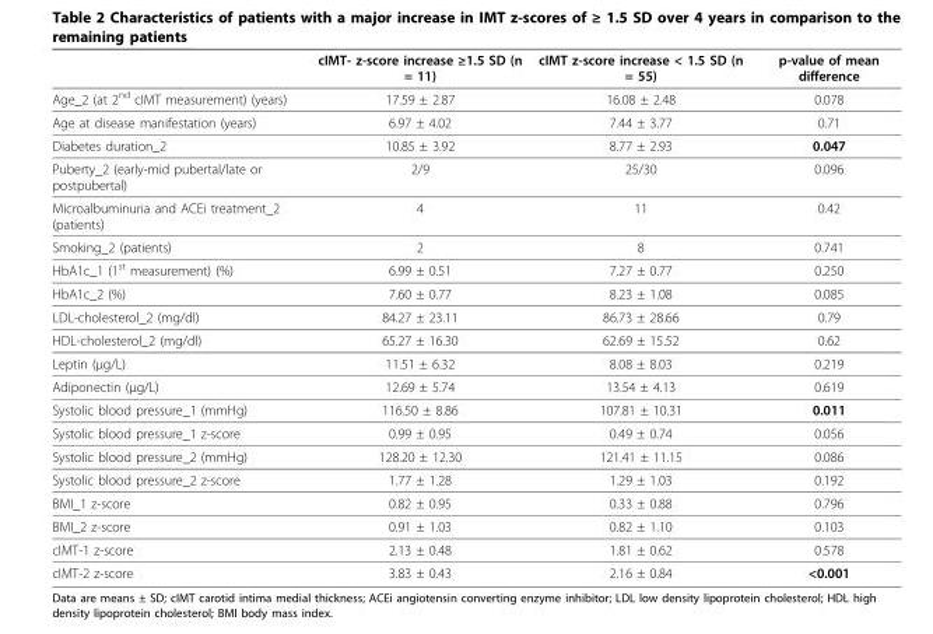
<table><thead><tr><td></td><td>cIMT- z-score increase ≥1.5 SD (n = 11)</td><td>cIMT z-score increase &lt; 1.5 SD (n = 55)</td><td>p-value of mean difference</td></tr></thead><tbody><tr><td>Age_2 (at 2<sup>nd</sup> cIMT measurement) (years)</td><td>17.59 ± 2.87</td><td>16.08 ± 2.48</td><td>0.078</td></tr><tr><td>Age at disease manifestation (years)</td><td>6.97 ± 4.02</td><td>7.44 ± 3.77</td><td>0.71</td></tr><tr><td>Diabetes duration_2</td><td>10.85 ± 3.92</td><td>8.77 ± 2.93</td><td>0.047</td></tr><tr><td>Puberty_2 (early-mid pubertal/late or postpubertal)</td><td>2/9</td><td>25/30</td><td>0.096</td></tr><tr><td>Microalbuminuria and ACEi treatment_2 (patients)</td><td>4</td><td>11</td><td>0.42</td></tr><tr><td>Smoking_2 (patients)</td><td>2</td><td>8</td><td>0.741</td></tr><tr><td>HbA1c_1 (1<sup>st</sup> measurement) (%)</td><td>6.99 ± 0.51</td><td>7.27 ± 0.77</td><td>0.250</td></tr><tr><td>HbA1c_2 (%)</td><td>7.60 ± 0.77</td><td>8.23 ± 1.08</td><td>0.085</td></tr><tr><td>LDL-cholesterol_2 (mg/dl)</td><td>84.27 ± 23.11</td><td>86.73 ± 28.66</td><td>0.79</td></tr><tr><td>HDL-cholesterol_2 (mg/dl)</td><td>65.27 ± 16.30</td><td>62.69 ± 15.52</td><td>0.62</td></tr><tr><td>Leptin (μg/L)</td><td>11.51 ± 6.32</td><td>8.08 ± 8.03</td><td>0.219</td></tr><tr><td>Adiponectin (μg/L)</td><td>12.69 ± 5.74</td><td>13.54 ± 4.13</td><td>0.619</td></tr><tr><td>Systolic blood pressure_1 (mmHg)</td><td>116.50 ± 8.86</td><td>107.81 ± 10.31</td><td>0.011</td></tr><tr><td>Systolic blood pressure_1 z-score</td><td>0.99 ± 0.95</td><td>0.49 ± 0.74</td><td>0.056</td></tr><tr><td>Systolic blood pressure_2 (mmHg)</td><td>128.20 ± 12.30</td><td>121.41 ± 11.15</td><td>0.086</td></tr><tr><td>Systolic blood pressure_2 z-score</td><td>1.77 ± 1.28</td><td>1.29 ± 1.03</td><td>0.192</td></tr><tr><td>BMI_1 z-score</td><td>0.82 ± 0.95</td><td>0.33 ± 0.88</td><td>0.796</td></tr><tr><td>BMI_2 z-score</td><td>0.91 ± 1.03</td><td>0.82 ± 1.10</td><td>0.103</td></tr><tr><td>cIMT-1 z-score</td><td>2.13 ± 0.48</td><td>1.81 ± 0.62</td><td>0.578</td></tr><tr><td>cIMT-2 z-score</td><td>3.83 ± 0.43</td><td>2.16 ± 0.84</td><td>&lt;0.001</td></tr></tbody></table>